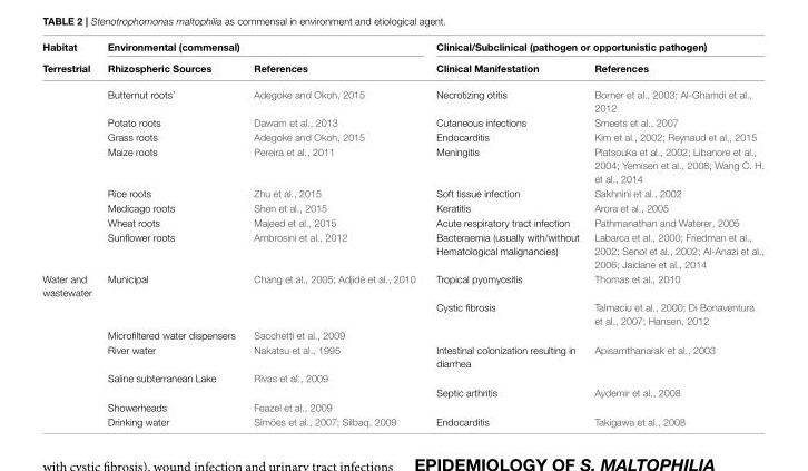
<table><thead><tr><td rowspan="2">Habitat Terrestrial</td><td colspan="2">Environmental (commensal)</td><td colspan="2">Clinical/Subclinical (pathogen or opportunistic pathogen)</td></tr><tr><td>Rhizospheric Sources</td><td>References</td><td>Clinical Manifestation</td><td>References</td></tr></thead><tbody><tr><td></td><td>Butternut roots’</td><td>Adegoke and Okoh, 2015</td><td>Necrotizing otitis</td><td>Borner et al., 2003; Al-Ghamdi et al., 2012</td></tr><tr><td></td><td>Potato roots</td><td>Dawam et al., 2013</td><td>Cutaneous infections</td><td>Smeets et al., 2007</td></tr><tr><td></td><td>Grass roots</td><td>Adegoke and Okoh, 2015</td><td>Endocarditis</td><td>Kim et al., 2002; Reynaud et al., 2015</td></tr><tr><td></td><td>Maize roots</td><td>Pereira et al., 2011</td><td>Meningitis</td><td>Platsouka et al., 2002; Libanore et al., 2004; Yemisen et al., 2008; Wang C. H. et al., 2014</td></tr><tr><td></td><td>Rice roots</td><td>Zhu et al., 2015</td><td>Soft tissue infection</td><td>Sakhnini et al., 2002</td></tr><tr><td></td><td>Medicago roots</td><td>Shen et al., 2015</td><td>Keratitis</td><td>Arora et al., 2005</td></tr><tr><td></td><td>Wheat roots</td><td>Majeed et al., 2015</td><td>Acute respiratory tract infection</td><td>Pathmanathan and Waterer, 2005</td></tr><tr><td></td><td>Sunflower roots</td><td>Ambrosini et al., 2012</td><td>Bacteraemia (usually with/without Hematological malignancies)</td><td>Labarca et al., 2000; Friedman et al., 2002; Senol et al., 2002; Al-Anazi et al., 2006; Jaidane et al., 2014</td></tr><tr><td rowspan="8">Water and wastewater</td><td>Municipal</td><td>Chang et al., 2005; Adjidé et al., 2010</td><td>Tropical pyomyositis</td><td>Thomas et al., 2010</td></tr><tr><td></td><td></td><td>Cystic fibrosis</td><td>Talmaciu et al., 2000; Di Bonaventura et al., 2007; Hansen, 2012</td></tr><tr><td>Microfiltered water dispensers</td><td>Sacchetti et al., 2009</td><td></td><td></td></tr><tr><td>River water</td><td>Nakatsu et al., 1995</td><td>Intestinal colonization resulting in diarrhea</td><td>Apisarnthanarak et al., 2003</td></tr><tr><td>Saline subterranean Lake</td><td>Rivas et al., 2009</td><td></td><td></td></tr><tr><td></td><td></td><td>Septic arthritis</td><td>Aydemir et al., 2008</td></tr><tr><td>Showerheads</td><td>Feazel et al., 2009</td><td></td><td></td></tr><tr><td>Drinking water</td><td>Simões et al., 2007; Silbaq, 2009</td><td>Endocarditis</td><td>Takigawa et al., 2008</td></tr></tbody></table>